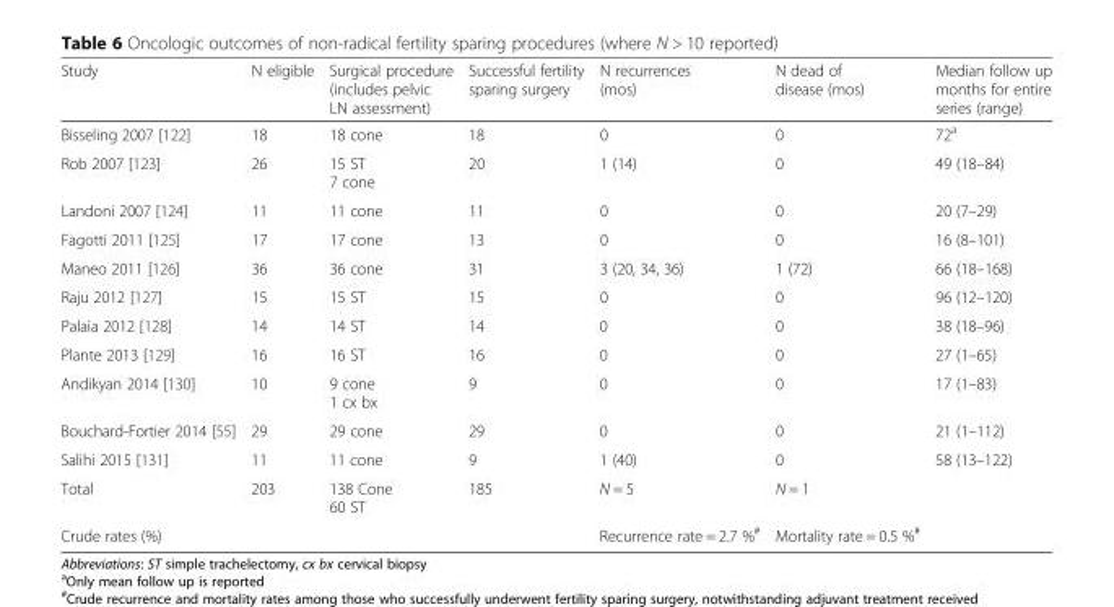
<table><thead><tr><td>Study</td><td>N eligible</td><td>Surgical procedure (includes pelvic LN assessment)</td><td>Successful fertility sparing surgery</td><td>N recurrences (mos)</td><td>N dead of disease (mos)</td><td>Median follow up months for entire series (range)</td></tr></thead><tbody><tr><td>Bisseling 2007 [122]</td><td>18</td><td>18 cone</td><td>18</td><td>0</td><td>0</td><td>72<sup>a</sup></td></tr><tr><td>Rob 2007 [123]</td><td>26</td><td>15 ST 7 cone</td><td>20</td><td>1 (14)</td><td>0</td><td>49 (18–84)</td></tr><tr><td>Landoni 2007 [124]</td><td>11</td><td>11 cone</td><td>11</td><td>0</td><td>0</td><td>20 (7–29)</td></tr><tr><td>Fagotti 2011 [125]</td><td>17</td><td>17 cone</td><td>13</td><td>0</td><td>0</td><td>16 (8–101)</td></tr><tr><td>Maneo 2011 [126]</td><td>36</td><td>36 cone</td><td>31</td><td>3 (20, 34, 36)</td><td>1 (72)</td><td>66 (18–168)</td></tr><tr><td>Raju 2012 [127]</td><td>15</td><td>15 ST</td><td>15</td><td>0</td><td>0</td><td>96 (12–120)</td></tr><tr><td>Palaia 2012 [128]</td><td>14</td><td>14 ST</td><td>14</td><td>0</td><td>0</td><td>38 (18–96)</td></tr><tr><td>Plante 2013 [129]</td><td>16</td><td>16 ST</td><td>16</td><td>0</td><td>0</td><td>27 (1–65)</td></tr><tr><td>Andikyan 2014 [130]</td><td>10</td><td>9 cone 1 cx bx</td><td>9</td><td>0</td><td>0</td><td>17 (1–83)</td></tr><tr><td>Bouchard-Fortier 2014 [55]</td><td>29</td><td>29 cone</td><td>29</td><td>0</td><td>0</td><td>21 (1–112)</td></tr><tr><td>Salihi 2015 [131]</td><td>11</td><td>11 cone</td><td>9</td><td>1 (40)</td><td>0</td><td>58 (13–122)</td></tr><tr><td>Total</td><td>203</td><td>138 Cone 60 ST</td><td>185</td><td>N = 5</td><td>N = 1</td><td></td></tr><tr><td>Crude rates (%)</td><td></td><td></td><td></td><td>Recurrence rate = 2.7 %<sup>#</sup></td><td>Mortality rate = 0.5 %<sup>#</sup></td><td></td></tr></tbody></table>